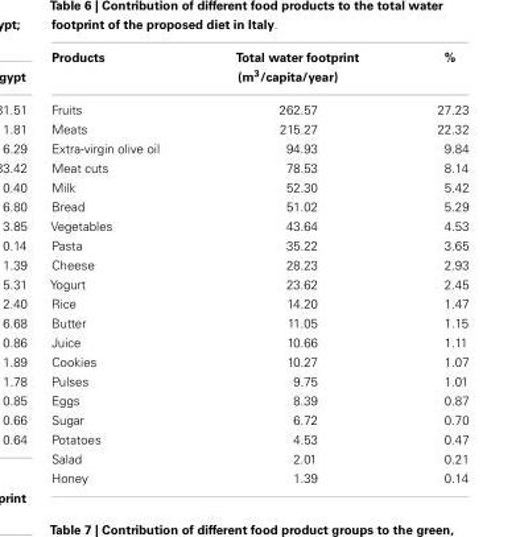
<table><thead><tr><td>Products</td><td>Total water footprint (m<sup>3</sup>/capita/year)</td><td>%</td></tr></thead><tbody><tr><td>Fruits</td><td>262.57</td><td>27.23</td></tr><tr><td>Meats</td><td>215.27</td><td>22.32</td></tr><tr><td>Extra-virgin olive oil</td><td>94.93</td><td>9.84</td></tr><tr><td>Meat cuts</td><td>78.53</td><td>8.14</td></tr><tr><td>Milk</td><td>52.30</td><td>5.42</td></tr><tr><td>Bread</td><td>51.02</td><td>5.29</td></tr><tr><td>Vegetables</td><td>43.64</td><td>4.53</td></tr><tr><td>Pasta</td><td>35.22</td><td>3.65</td></tr><tr><td>Cheese</td><td>28.23</td><td>2.93</td></tr><tr><td>Yogurt</td><td>23.62</td><td>2.45</td></tr><tr><td>Rice</td><td>14.20</td><td>1.47</td></tr><tr><td>Butter</td><td>11.05</td><td>1.15</td></tr><tr><td>Juice</td><td>10.66</td><td>1.11</td></tr><tr><td>Cookies</td><td>10.27</td><td>1.07</td></tr><tr><td>Pulses</td><td>9.75</td><td>1.01</td></tr><tr><td>Eggs</td><td>8.39</td><td>0.87</td></tr><tr><td>Sugar</td><td>6.72</td><td>0.70</td></tr><tr><td>Potatoes</td><td>4.53</td><td>0.47</td></tr><tr><td>Salad</td><td>2.01</td><td>0.21</td></tr><tr><td>Honey</td><td>1.39</td><td>0.14</td></tr></tbody></table>